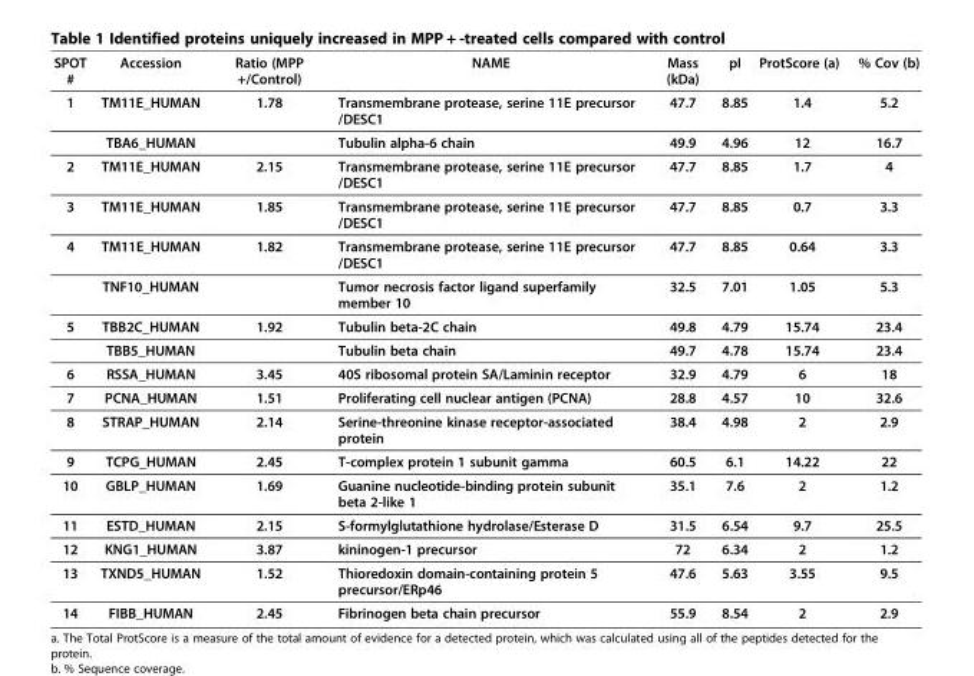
<table><thead><tr><td>SPOT #</td><td>Accession</td><td>Ratio (MPP +/Control)</td><td>NAME</td><td>Mass (kDa)</td><td>pI</td><td>ProtScore (a)</td><td>% Cov (b)</td></tr></thead><tbody><tr><td rowspan="2">1</td><td>TM11E_HUMAN</td><td>1.78</td><td>Transmembrane protease, serine 11E precursor /DESC1</td><td>47.7</td><td>8.85</td><td>1.4</td><td>5.2</td></tr><tr><td>TBA6_HUMAN</td><td></td><td>Tubulin alpha-6 chain</td><td>49.9</td><td>4.96</td><td>12</td><td>16.7</td></tr><tr><td>2</td><td>TM11E_HUMAN</td><td>2.15</td><td>Transmembrane protease, serine 11E precursor /DESC1</td><td>47.7</td><td>8.85</td><td>1.7</td><td>4</td></tr><tr><td>3</td><td>TM11E_HUMAN</td><td>1.85</td><td>Transmembrane protease, serine 11E precursor /DESC1</td><td>47.7</td><td>8.85</td><td>0.7</td><td>3.3</td></tr><tr><td rowspan="2">4</td><td>TM11E_HUMAN</td><td>1.82</td><td>Transmembrane protease, serine 11E precursor /DESC1</td><td>47.7</td><td>8.85</td><td>0.64</td><td>3.3</td></tr><tr><td>TNF10_HUMAN</td><td></td><td>Tumor necrosis factor ligand superfamily member 10</td><td>32.5</td><td>7.01</td><td>1.05</td><td>5.3</td></tr><tr><td rowspan="2">5</td><td>TBB2C_HUMAN</td><td>1.92</td><td>Tubulin beta-2C chain</td><td>49.8</td><td>4.79</td><td>15.74</td><td>23.4</td></tr><tr><td>TBB5_HUMAN</td><td></td><td>Tubulin beta chain</td><td>49.7</td><td>4.78</td><td>15.74</td><td>23.4</td></tr><tr><td>6</td><td>RSSA_HUMAN</td><td>3.45</td><td>40S ribosomal protein SA/Laminin receptor</td><td>32.9</td><td>4.79</td><td>6</td><td>18</td></tr><tr><td>7</td><td>PCNA_HUMAN</td><td>1.51</td><td>Proliferating cell nuclear antigen (PCNA)</td><td>28.8</td><td>4.57</td><td>10</td><td>32.6</td></tr><tr><td>8</td><td>STRAP_HUMAN</td><td>2.14</td><td>Serine-threonine kinase receptor-associated protein</td><td>38.4</td><td>4.98</td><td>2</td><td>2.9</td></tr><tr><td>9</td><td>TCPG_HUMAN</td><td>2.45</td><td>T-complex protein 1 subunit gamma</td><td>60.5</td><td>6.1</td><td>14.22</td><td>22</td></tr><tr><td>10</td><td>GBLP_HUMAN</td><td>1.69</td><td>Guanine nucleotide-binding protein subunit beta 2-like 1</td><td>35.1</td><td>7.6</td><td>2</td><td>1.2</td></tr><tr><td>11</td><td>ESTD_HUMAN</td><td>2.15</td><td>S-formylglutathione hydrolase/Esterase D</td><td>31.5</td><td>6.54</td><td>9.7</td><td>25.5</td></tr><tr><td>12</td><td>KNG1_HUMAN</td><td>3.87</td><td>kininogen-1 precursor</td><td>72</td><td>6.34</td><td>2</td><td>1.2</td></tr><tr><td>13</td><td>TXND5_HUMAN</td><td>1.52</td><td>Thioredoxin domain-containing protein 5 precursor/ERp46</td><td>47.6</td><td>5.63</td><td>3.55</td><td>9.5</td></tr><tr><td>14</td><td>FIBB_HUMAN</td><td>2.45</td><td>Fibrinogen beta chain precursor</td><td>55.9</td><td>8.54</td><td>2</td><td>2.9</td></tr></tbody></table>